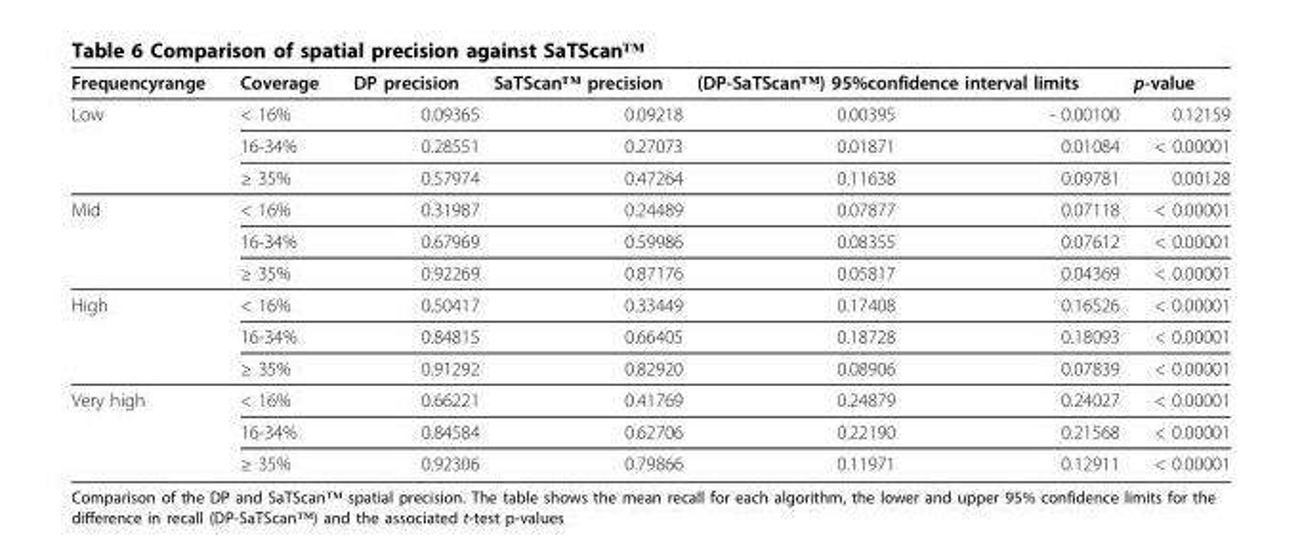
<table><thead><tr><td rowspan="2">Frequencyrange Low</td><td rowspan="2">Coverage &lt; 16%</td><td rowspan="2">DP precision 0.09365</td><td rowspan="2">SaTScan™ precision 0.09218</td><td colspan="2">(DP-SaTScan™) 95%confidence interval limits</td><td rowspan="2">p-value 0.12159</td></tr><tr><td>0.00395</td><td>- 0.00100</td></tr></thead><tbody><tr><td></td><td>16-34%</td><td>0.28551</td><td>0.27073</td><td>0.01871</td><td>0.01084</td><td>&lt; 0.00001</td></tr><tr><td></td><td>≥ 35%</td><td>0.57974</td><td>0.47264</td><td>0.11638</td><td>0.09781</td><td>0.00128</td></tr><tr><td rowspan="3">Mid</td><td>&lt; 16%</td><td>0.31987</td><td>0.24489</td><td>0.07877</td><td>0.07118</td><td>&lt; 0.00001</td></tr><tr><td>16-34%</td><td>0.67969</td><td>0.59986</td><td>0.08355</td><td>0.07612</td><td>&lt; 0.00001</td></tr><tr><td>≥ 35%</td><td>0.92269</td><td>0.87176</td><td>0.05817</td><td>0.04369</td><td>&lt; 0.00001</td></tr><tr><td rowspan="3">High</td><td>&lt; 16%</td><td>0.50417</td><td>0.33449</td><td>0.17408</td><td>0.16526</td><td>&lt; 0.00001</td></tr><tr><td>16-34%</td><td>0.84815</td><td>0.66405</td><td>0.18728</td><td>0.18093</td><td>&lt; 0.00001</td></tr><tr><td>≥ 35%</td><td>0.91292</td><td>0.82920</td><td>0.08906</td><td>0.07839</td><td>&lt; 0.00001</td></tr><tr><td rowspan="3">Very high</td><td>&lt; 16%</td><td>0.66221</td><td>0.41769</td><td>0.24879</td><td>0.24027</td><td>&lt; 0.00001</td></tr><tr><td>16-34%</td><td>0.84584</td><td>0.62706</td><td>0.22190</td><td>0.21568</td><td>&lt; 0.00001</td></tr><tr><td>≥ 35%</td><td>0.92306</td><td>0.79866</td><td>0.11971</td><td>0.12911</td><td>&lt; 0.00001</td></tr></tbody></table>